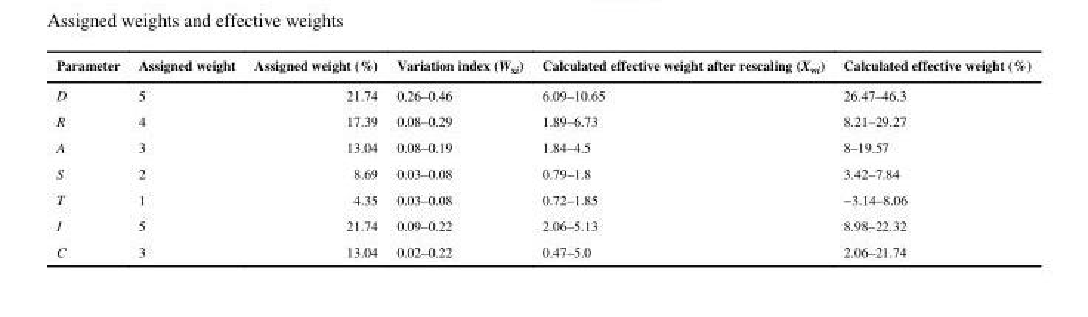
<table><thead><tr><td>Parameter</td><td>Assigned weight</td><td>Assigned weight (%)</td><td>Variation index (W<sub>xi</sub>)</td><td>Calculated effective weight after rescaling (X<sub>wi</sub>)</td><td>Calculated effective weight (%)</td></tr></thead><tbody><tr><td>D</td><td>5</td><td>21.74</td><td>0.26–0.46</td><td>6.09–10.65</td><td>26.47–46.3</td></tr><tr><td>R</td><td>4</td><td>17.39</td><td>0.08–0.29</td><td>1.89–6.73</td><td>8.21–29.27</td></tr><tr><td>A</td><td>3</td><td>13.04</td><td>0.08–0.19</td><td>1.84–4.5</td><td>8–19.57</td></tr><tr><td>S</td><td>2</td><td>8.69</td><td>0.03–0.08</td><td>0.79–1.8</td><td>3.42–7.84</td></tr><tr><td>T</td><td>1</td><td>4.35</td><td>0.03–0.08</td><td>0.72–1.85</td><td>−3.14–8.06</td></tr><tr><td>I</td><td>5</td><td>21.74</td><td>0.09–0.22</td><td>2.06–5.13</td><td>8.98–22.32</td></tr><tr><td>C</td><td>3</td><td>13.04</td><td>0.02–0.22</td><td>0.47–5.0</td><td>2.06–21.74</td></tr></tbody></table>